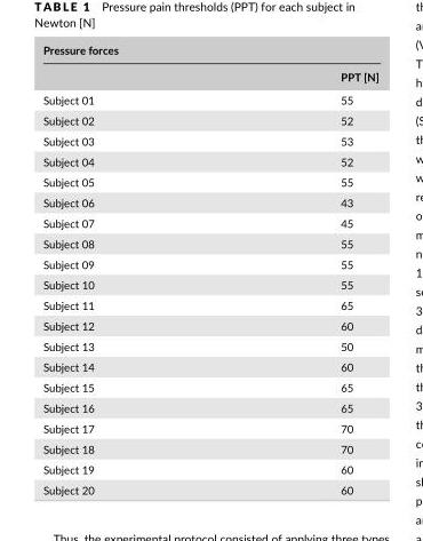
<table><thead><tr><td colspan="2">Pressure forces</td></tr><tr><td></td><td>PPT [N]</td></tr></thead><tbody><tr><td>Subject 01</td><td>55</td></tr><tr><td>Subject 02</td><td>52</td></tr><tr><td>Subject 03</td><td>53</td></tr><tr><td>Subject 04</td><td>52</td></tr><tr><td>Subject 05</td><td>55</td></tr><tr><td>Subject 06</td><td>43</td></tr><tr><td>Subject 07</td><td>45</td></tr><tr><td>Subject 08</td><td>55</td></tr><tr><td>Subject 09</td><td>55</td></tr><tr><td>Subject 10</td><td>55</td></tr><tr><td>Subject 11</td><td>65</td></tr><tr><td>Subject 12</td><td>60</td></tr><tr><td>Subject 13</td><td>50</td></tr><tr><td>Subject 14</td><td>60</td></tr><tr><td>Subject 15</td><td>65</td></tr><tr><td>Subject 16</td><td>65</td></tr><tr><td>Subject 17</td><td>70</td></tr><tr><td>Subject 18</td><td>70</td></tr><tr><td>Subject 19</td><td>60</td></tr><tr><td>Subject 20</td><td>60</td></tr></tbody></table>